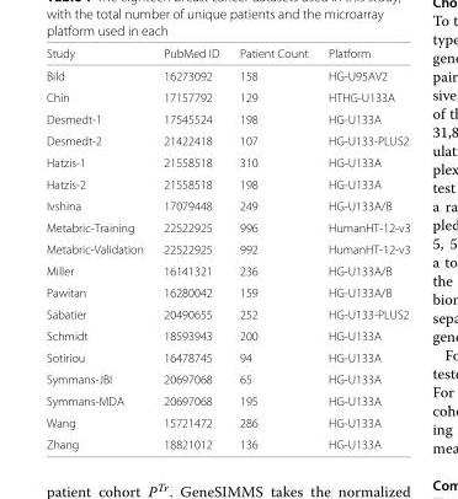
<table><thead><tr><td>Study</td><td>PubMed ID</td><td>Patient Count</td><td>Platform</td></tr></thead><tbody><tr><td>Bild</td><td>16273092</td><td>158</td><td>HG-U95AV2</td></tr><tr><td>Chin</td><td>17157792</td><td>129</td><td>HTHG-U133A</td></tr><tr><td>Desmedt-1</td><td>17545524</td><td>198</td><td>HG-U133A</td></tr><tr><td>Desmedt-2</td><td>21422418</td><td>107</td><td>HG-U133-PLUS2</td></tr><tr><td>Hatzis-1</td><td>21558518</td><td>310</td><td>HG-U133A</td></tr><tr><td>Hatzis-2</td><td>21558518</td><td>198</td><td>HG-U133A</td></tr><tr><td>Ivshina</td><td>17079448</td><td>249</td><td>HG-U133A/B</td></tr><tr><td>Metabric-Training</td><td>22522925</td><td>996</td><td>HumanHT-12-v3</td></tr><tr><td>Metabric-Validation</td><td>22522925</td><td>992</td><td>HumanHT-12-v3</td></tr><tr><td>Miller</td><td>16141321</td><td>236</td><td>HG-U133A/B</td></tr><tr><td>Pawitan</td><td>16280042</td><td>159</td><td>HG-U133A/B</td></tr><tr><td>Sabatier</td><td>20490655</td><td>252</td><td>HG-U133-PLUS2</td></tr><tr><td>Schmidt</td><td>18593943</td><td>200</td><td>HG-U133A</td></tr><tr><td>Sotiriou</td><td>16478745</td><td>94</td><td>HG-U133A</td></tr><tr><td>Symmans-JBI</td><td>20697068</td><td>65</td><td>HG-U133A</td></tr><tr><td>Symmans-MDA</td><td>20697068</td><td>195</td><td>HG-U133A</td></tr><tr><td>Wang</td><td>15721472</td><td>286</td><td>HG-U133A</td></tr><tr><td>Zhang</td><td>18821012</td><td>136</td><td>HG-U133A</td></tr></tbody></table>